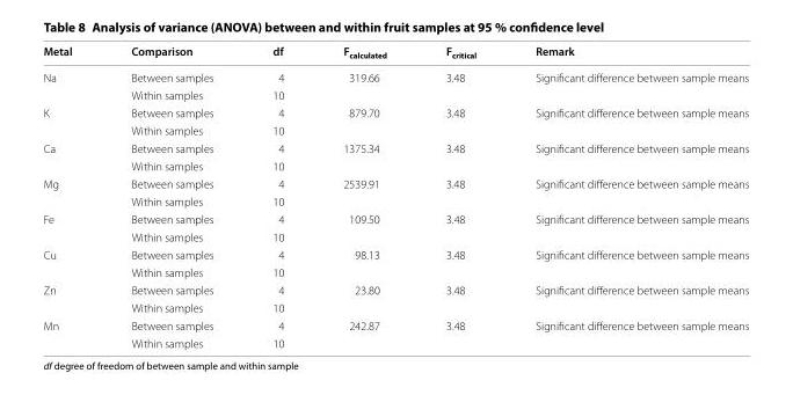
<table><thead><tr><td>Metal</td><td>Comparison</td><td>df</td><td>F<sub>calculated</sub></td><td>F<sub>critical</sub></td><td>Remark</td></tr></thead><tbody><tr><td rowspan="2">Na</td><td>Between samples</td><td>4</td><td rowspan="2">319.66</td><td rowspan="2">3.48</td><td rowspan="2">Significant difference between sample means</td></tr><tr><td>Within samples</td><td>10</td></tr><tr><td rowspan="2">K</td><td>Between samples</td><td>4</td><td rowspan="2">879.70</td><td rowspan="2">3.48</td><td rowspan="2">Significant difference between sample means</td></tr><tr><td>Within samples</td><td>10</td></tr><tr><td rowspan="2">Ca</td><td>Between samples</td><td>4</td><td rowspan="2">1375.34</td><td rowspan="2">3.48</td><td rowspan="2">Significant difference between sample means</td></tr><tr><td>Within samples</td><td>10</td></tr><tr><td rowspan="2">Mg</td><td>Between samples</td><td>4</td><td rowspan="2">2539.91</td><td rowspan="2">3.48</td><td rowspan="2">Significant difference between sample means</td></tr><tr><td>Within samples</td><td>10</td></tr><tr><td rowspan="2">Fe</td><td>Between samples</td><td>4</td><td rowspan="2">109.50</td><td rowspan="2">3.48</td><td rowspan="2">Significant difference between sample means</td></tr><tr><td>Within samples</td><td>10</td></tr><tr><td rowspan="2">Cu</td><td>Between samples</td><td>4</td><td rowspan="2">98.13</td><td rowspan="2">3.48</td><td rowspan="2">Significant difference between sample means</td></tr><tr><td>Within samples</td><td>10</td></tr><tr><td rowspan="2">Zn</td><td>Between samples</td><td>4</td><td rowspan="2">23.80</td><td rowspan="2">3.48</td><td rowspan="2">Significant difference between sample means</td></tr><tr><td>Within samples</td><td>10</td></tr><tr><td rowspan="2">Mn</td><td>Between samples</td><td>4</td><td rowspan="2">242.87</td><td rowspan="2">3.48</td><td rowspan="2">Significant difference between sample means</td></tr><tr><td>Within samples</td><td>10</td></tr></tbody></table>